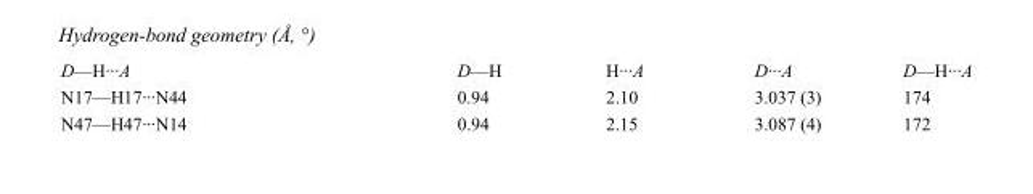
<table><tbody><tr><td>D—H···A</td><td>D—H</td><td>H···A</td><td>D···A</td><td>D—H···A</td></tr><tr><td>N17—H17···N44</td><td>0.94</td><td>2.10</td><td>3.037 (3)</td><td>174</td></tr><tr><td>N47—H47···N14</td><td>0.94</td><td>2.15</td><td>3.087 (4)</td><td>172</td></tr></tbody></table>